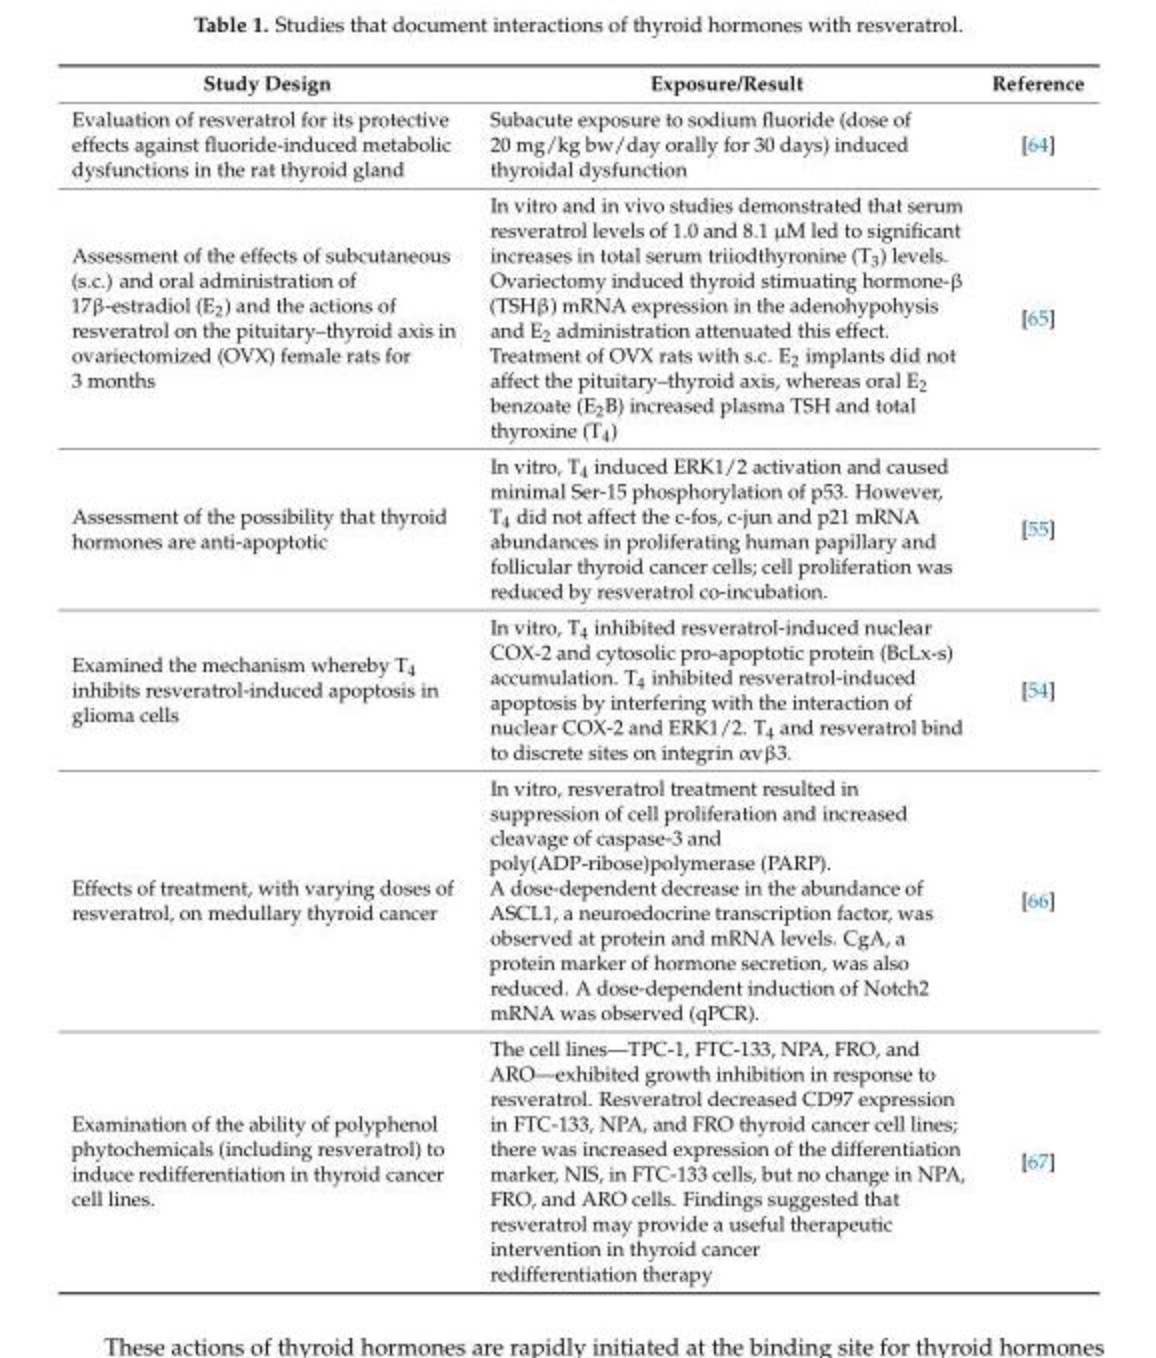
<table><thead><tr><td>Study Design</td><td>Exposure/Result</td><td>Reference</td></tr></thead><tbody><tr><td>Evaluation of resveratrol for its protective effects against fluoride-induced metabolic dysfunctions in the rat thyroid gland</td><td>Subacute exposure to sodium fluoride (dose of 20 mg/kg bw/day orally for 30 days) induced thyroidal dysfunction</td><td>[64]</td></tr><tr><td>Assessment of the effects of subcutaneous (s.c.) and oral administration of 17β-estradiol (E<sub>2</sub>) and the actions of resveratrol on the pituitary–thyroid axis in ovariectomized (OVX) female rats for 3 months</td><td>In vitro and in vivo studies demonstrated that serum resveratrol levels of 1.0 and 8.1 µM led to significant increases in total serum triiodthyronine (T<sub>3</sub>) levels. Ovariectomy induced thyroid stimuating hormone-β (TSHβ) mRNA expression in the adenohypohysis and E<sub>2</sub> administration attenuated this effect. Treatment of OVX rats with s.c. E<sub>2</sub> implants did not affect the pituitary–thyroid axis, whereas oral E<sub>2</sub> benzoate (E<sub>2</sub>B) increased plasma TSH and total thyroxine (T<sub>4</sub>)</td><td>[65]</td></tr><tr><td>Assessment of the possibility that thyroid hormones are anti-apoptotic</td><td>In vitro, T<sub>4</sub> induced ERK1/2 activation and caused minimal Ser-15 phosphorylation of p53. However, T<sub>4</sub> did not affect the c-fos, c-jun and p21 mRNA abundances in proliferating human papillary and follicular thyroid cancer cells; cell proliferation was reduced by resveratrol co-incubation.</td><td>[55]</td></tr><tr><td>Examined the mechanism whereby T<sub>4</sub> inhibits resveratrol-induced apoptosis in glioma cells</td><td>In vitro, T<sub>4</sub> inhibited resveratrol-induced nuclear COX-2 and cytosolic pro-apoptotic protein (BcLx-s) accumulation. T<sub>4</sub> inhibited resveratrol-induced apoptosis by interfering with the interaction of nuclear COX-2 and ERK1/2. T<sub>4</sub> and resveratrol bind to discrete sites on integrin αvβ3.</td><td>[54]</td></tr><tr><td>Effects of treatment, with varying doses of resveratrol, on medullary thyroid cancer</td><td>In vitro, resveratrol treatment resulted in suppression of cell proliferation and increased cleavage of caspase-3 and poly(ADP-ribose)polymerase (PARP). A dose-dependent decrease in the abundance of ASCL1, a neuroedocrine transcription factor, was observed at protein and mRNA levels. CgA, a protein marker of hormone secretion, was also reduced. A dose-dependent induction of Notch2 mRNA was observed (qPCR).</td><td>[66]</td></tr><tr><td>Examination of the ability of polyphenol phytochemicals (including resveratrol) to induce redifferentiation in thyroid cancer cell lines.</td><td>The cell lines—TPC-1, FTC-133, NPA, FRO, and ARO—exhibited growth inhibition in response to resveratrol. Resveratrol decreased CD97 expression in FTC-133, NPA, and FRO thyroid cancer cell lines; there was increased expression of the differentiation marker, NIS, in FTC-133 cells, but no change in NPA, FRO, and ARO cells. Findings suggested that resveratrol may provide a useful therapeutic intervention in thyroid cancer redifferentiation therapy</td><td>[67]</td></tr></tbody></table>